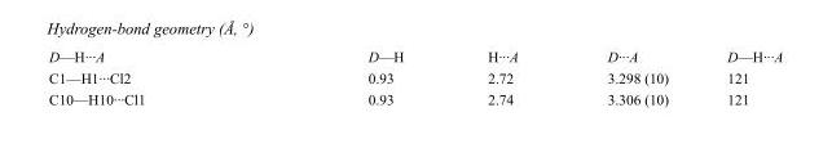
<table><tbody><tr><td>D—H···A</td><td>D—H</td><td>H···A</td><td>D···A</td><td>D—H···A</td></tr><tr><td>C1—H1···Cl2</td><td>0.93</td><td>2.72</td><td>3.298 (10)</td><td>121</td></tr><tr><td>C10—H10···Cl1</td><td>0.93</td><td>2.74</td><td>3.306 (10)</td><td>121</td></tr></tbody></table>